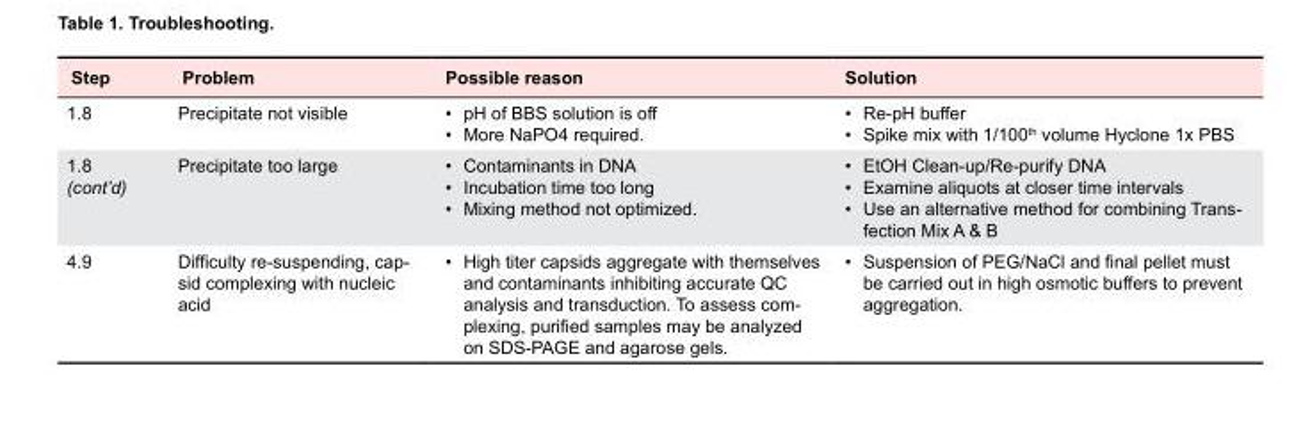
<table><tbody><tr><td>Step</td><td>Problem</td><td>Possible reason</td><td>Solution</td></tr><tr><td>1.8</td><td>Precipitate not visible</td><td>• pH of BBS solution is off • More NaPO4 required.</td><td>• Re-pH buffer • Spike mix with 1/100<sup>th</sup> volume Hyclone 1x PBS</td></tr><tr><td>1.8 (cont’d)</td><td>Precipitate too large</td><td>• Contaminants in DNA • Incubation time too long • Mixing method not optimized.</td><td>• EtOH Clean-up/Re-purify DNA • Examine aliquots at closer time intervals • Use an alternative method for combining Trans- fection Mix A &amp; B</td></tr><tr><td>4.9</td><td>Difficulty re-suspending, cap- sid complexing with nucleic acid</td><td>• High titer capsids aggregate with themselves and contaminants inhibiting accurate QC analysis and transduction. To assess com- plexing, purified samples may be analyzed on SDS-PAGE and agarose gels.</td><td>• Suspension of PEG/NaCl and final pellet must be carried out in high osmotic buffers to prevent aggregation.</td></tr></tbody></table>